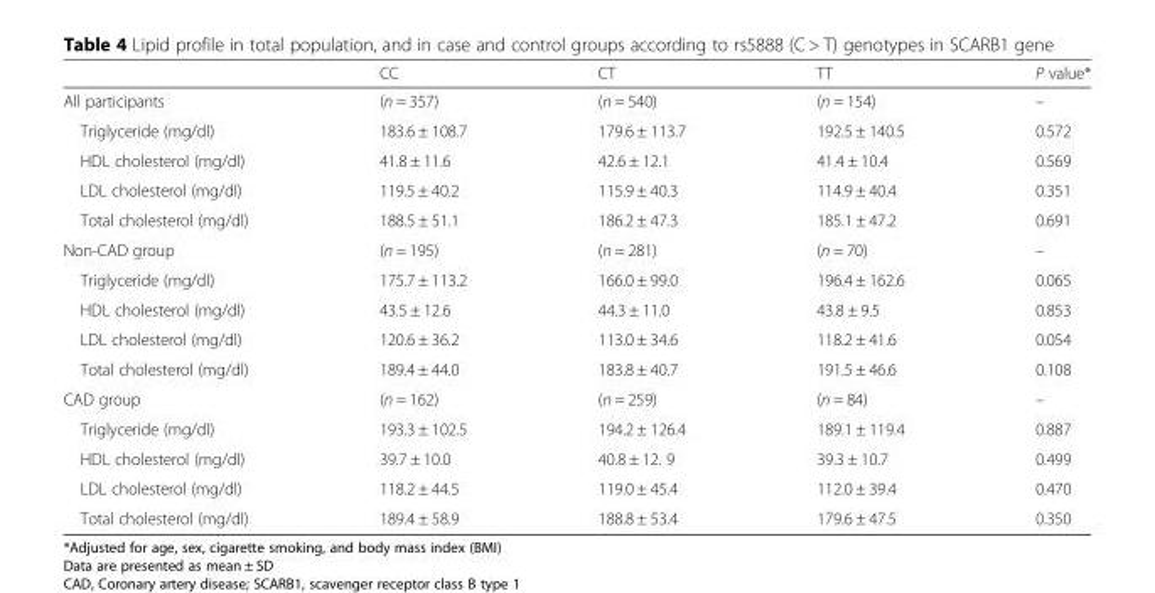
<table><thead><tr><td></td><td>CC</td><td>CT</td><td>TT</td><td>P value*</td></tr></thead><tbody><tr><td>All participants</td><td>(n = 357)</td><td>(n = 540)</td><td>(n = 154)</td><td>–</td></tr><tr><td>Triglyceride (mg/dl)</td><td>183.6 ± 108.7</td><td>179.6 ± 113.7</td><td>192.5 ± 140.5</td><td>0.572</td></tr><tr><td>HDL cholesterol (mg/dl)</td><td>41.8 ± 11.6</td><td>42.6 ± 12.1</td><td>41.4 ± 10.4</td><td>0.569</td></tr><tr><td>LDL cholesterol (mg/dl)</td><td>119.5 ± 40.2</td><td>115.9 ± 40.3</td><td>114.9 ± 40.4</td><td>0.351</td></tr><tr><td>Total cholesterol (mg/dl)</td><td>188.5 ± 51.1</td><td>186.2 ± 47.3</td><td>185.1 ± 47.2</td><td>0.691</td></tr><tr><td>Non-CAD group</td><td>(n = 195)</td><td>(n = 281)</td><td>(n = 70)</td><td>–</td></tr><tr><td>Triglyceride (mg/dl)</td><td>175.7 ± 113.2</td><td>166.0 ± 99.0</td><td>196.4 ± 162.6</td><td>0.065</td></tr><tr><td>HDL cholesterol (mg/dl)</td><td>43.5 ± 12.6</td><td>44.3 ± 11.0</td><td>43.8 ± 9.5</td><td>0.853</td></tr><tr><td>LDL cholesterol (mg/dl)</td><td>120.6 ± 36.2</td><td>113.0 ± 34.6</td><td>118.2 ± 41.6</td><td>0.054</td></tr><tr><td>Total cholesterol (mg/dl)</td><td>189.4 ± 44.0</td><td>183.8 ± 40.7</td><td>191.5 ± 46.6</td><td>0.108</td></tr><tr><td>CAD group</td><td>(n = 162)</td><td>(n = 259)</td><td>(n = 84)</td><td>–</td></tr><tr><td>Triglyceride (mg/dl)</td><td>193.3 ± 102.5</td><td>194.2 ± 126.4</td><td>189.1 ± 119.4</td><td>0.887</td></tr><tr><td>HDL cholesterol (mg/dl)</td><td>39.7 ± 10.0</td><td>40.8 ± 12. 9</td><td>39.3 ± 10.7</td><td>0.499</td></tr><tr><td>LDL cholesterol (mg/dl)</td><td>118.2 ± 44.5</td><td>119.0 ± 45.4</td><td>112.0 ± 39.4</td><td>0.470</td></tr><tr><td>Total cholesterol (mg/dl)</td><td>189.4 ± 58.9</td><td>188.8 ± 53.4</td><td>179.6 ± 47.5</td><td>0.350</td></tr></tbody></table>